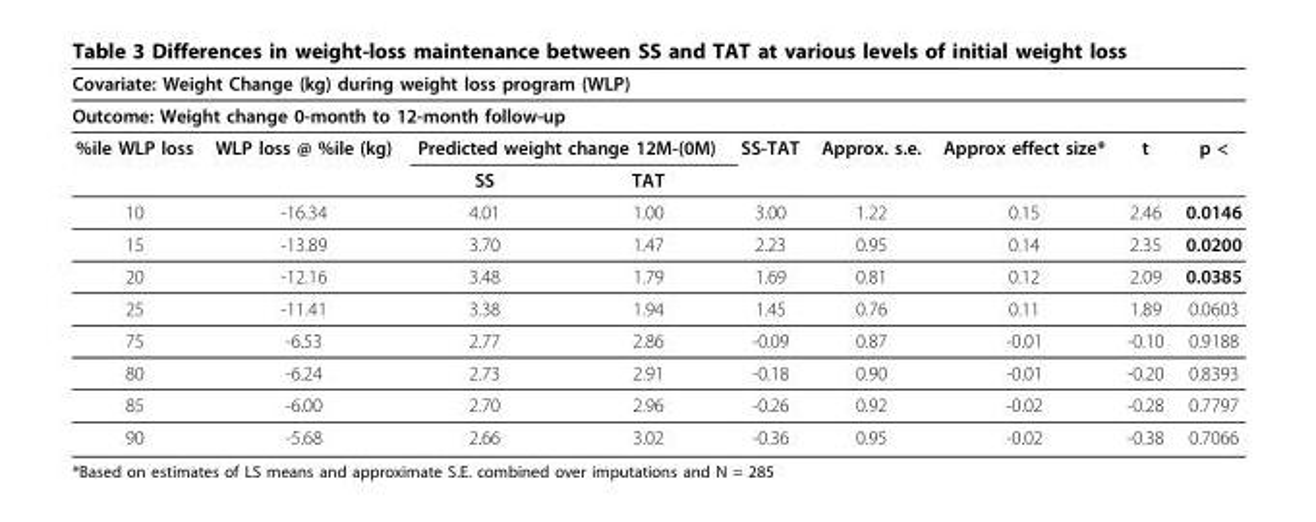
<table><thead><tr><td rowspan="2" colspan="9">Covariate: Weight Change (kg) during weight loss program (WLP) Outcome: Weight change 0-month to 12-month follow-up</td></tr><tr></tr><tr><td rowspan="2">%ile WLP loss</td><td rowspan="2">WLP loss @ %ile (kg)</td><td colspan="2">Predicted weight change 12M-(0M)</td><td rowspan="2">SS-TAT</td><td rowspan="2">Approx. s.e.</td><td rowspan="2">Approx effect size*</td><td rowspan="2">t</td><td rowspan="2">p &lt;</td></tr><tr><td>SS</td><td>TAT</td></tr></thead><tbody><tr><td>10</td><td>-16.34</td><td>4.01</td><td>1.00</td><td>3.00</td><td>1.22</td><td>0.15</td><td>2.46</td><td>0.0146</td></tr><tr><td>15</td><td>-13.89</td><td>3.70</td><td>1.47</td><td>2.23</td><td>0.95</td><td>0.14</td><td>2.35</td><td>0.0200</td></tr><tr><td>20</td><td>-12.16</td><td>3.48</td><td>1.79</td><td>1.69</td><td>0.81</td><td>0.12</td><td>2.09</td><td>0.0385</td></tr><tr><td>25</td><td>-11.41</td><td>3.38</td><td>1.94</td><td>1.45</td><td>0.76</td><td>0.11</td><td>1.89</td><td>0.0603</td></tr><tr><td>75</td><td>-6.53</td><td>2.77</td><td>2.86</td><td>-0.09</td><td>0.87</td><td>-0.01</td><td>-0.10</td><td>0.9188</td></tr><tr><td>80</td><td>-6.24</td><td>2.73</td><td>2.91</td><td>-0.18</td><td>0.90</td><td>-0.01</td><td>-0.20</td><td>0.8393</td></tr><tr><td>85</td><td>-6.00</td><td>2.70</td><td>2.96</td><td>-0.26</td><td>0.92</td><td>-0.02</td><td>-0.28</td><td>0.7797</td></tr><tr><td>90</td><td>-5.68</td><td>2.66</td><td>3.02</td><td>-0.36</td><td>0.95</td><td>-0.02</td><td>-0.38</td><td>0.7066</td></tr></tbody></table>